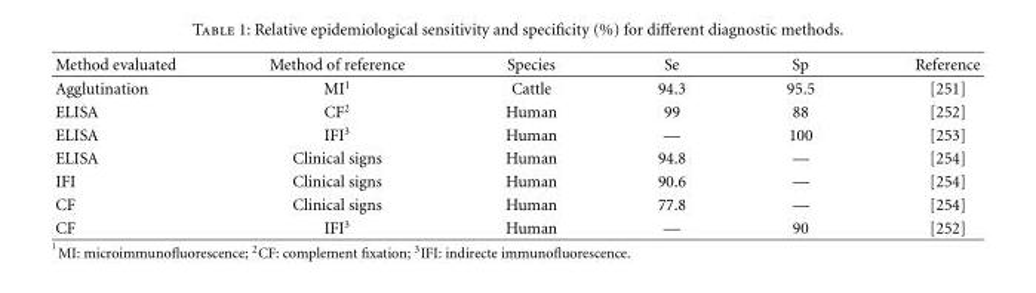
<table><thead><tr><td>Method evaluated</td><td>Method of reference</td><td>Species</td><td>Se</td><td>Sp</td><td>Reference</td></tr></thead><tbody><tr><td>Agglutination</td><td>MI<sup>1</sup></td><td>Cattle</td><td>94.3</td><td>95.5</td><td>[251]</td></tr><tr><td>ELISA</td><td>CF<sup>2</sup></td><td>Human</td><td>99</td><td>88</td><td>[252]</td></tr><tr><td>ELISA</td><td>IFI<sup>3</sup></td><td>Human</td><td>—</td><td>100</td><td>[253]</td></tr><tr><td>ELISA</td><td>Clinical signs</td><td>Human</td><td>94.8</td><td>—</td><td>[254]</td></tr><tr><td>IFI</td><td>Clinical signs</td><td>Human</td><td>90.6</td><td>—</td><td>[254]</td></tr><tr><td>CF</td><td>Clinical signs</td><td>Human</td><td>77.8</td><td>—</td><td>[254]</td></tr><tr><td>CF</td><td>IFI<sup>3</sup></td><td>Human</td><td>—</td><td>90</td><td>[252]</td></tr></tbody></table>